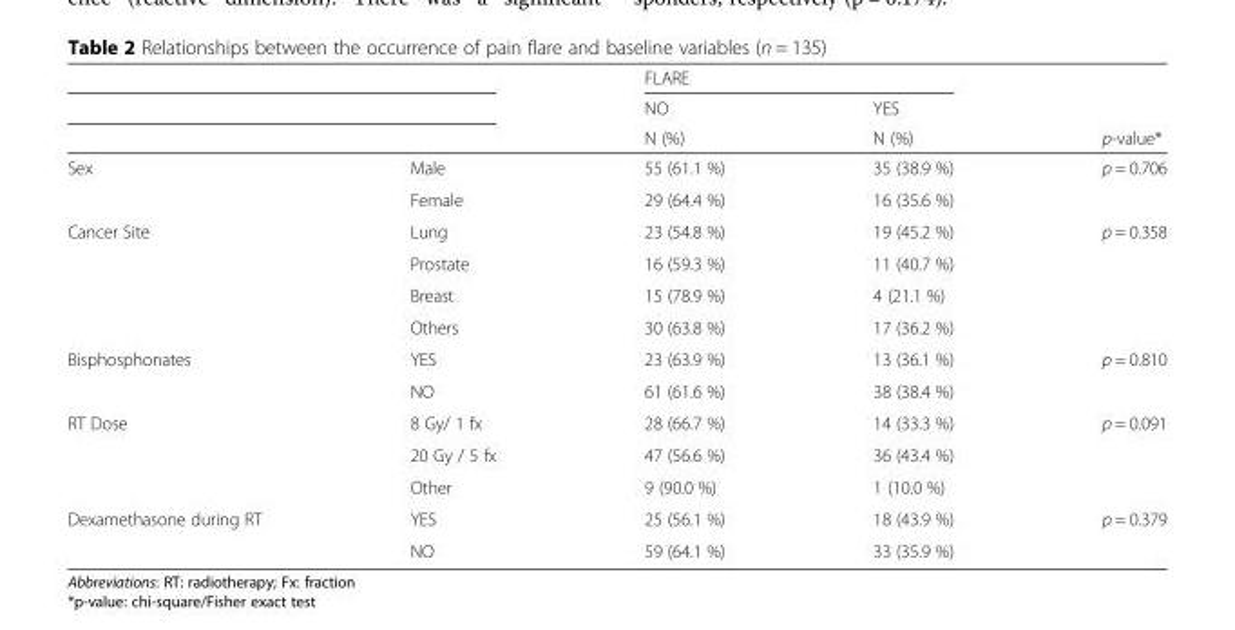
<table><thead><tr><td rowspan="3"></td><td rowspan="3"></td><td colspan="2">FLARE</td><td rowspan="3">p-value*</td></tr><tr><td rowspan="2">NO N (%)</td><td rowspan="2">YES N (%)</td></tr><tr></tr></thead><tbody><tr><td rowspan="2">Sex</td><td>Male</td><td>55 (61.1 %)</td><td>35 (38.9 %)</td><td rowspan="2">p = 0.706</td></tr><tr><td>Female</td><td>29 (64.4 %)</td><td>16 (35.6 %)</td></tr><tr><td rowspan="4">Cancer Site</td><td>Lung</td><td>23 (54.8 %)</td><td>19 (45.2 %)</td><td rowspan="4">p = 0.358</td></tr><tr><td>Prostate</td><td>16 (59.3 %)</td><td>11 (40.7 %)</td></tr><tr><td>Breast</td><td>15 (78.9 %)</td><td>4 (21.1 %)</td></tr><tr><td>Others</td><td>30 (63.8 %)</td><td>17 (36.2 %)</td></tr><tr><td rowspan="2">Bisphosphonates</td><td>YES</td><td>23 (63.9 %)</td><td>13 (36.1 %)</td><td rowspan="2">p = 0.810</td></tr><tr><td>NO</td><td>61 (61.6 %)</td><td>38 (38.4 %)</td></tr><tr><td rowspan="3">RT Dose</td><td>8 Gy/ 1 fx</td><td>28 (66.7 %)</td><td>14 (33.3 %)</td><td rowspan="3">p = 0.091</td></tr><tr><td>20 Gy / 5 fx</td><td>47 (56.6 %)</td><td>36 (43.4 %)</td></tr><tr><td>Other</td><td>9 (90.0 %)</td><td>1 (10.0 %)</td></tr><tr><td rowspan="2">Dexamethasone during RT</td><td>YES</td><td>25 (56.1 %)</td><td>18 (43.9 %)</td><td rowspan="2">p = 0.379</td></tr><tr><td>NO</td><td>59 (64.1 %)</td><td>33 (35.9 %)</td></tr></tbody></table>